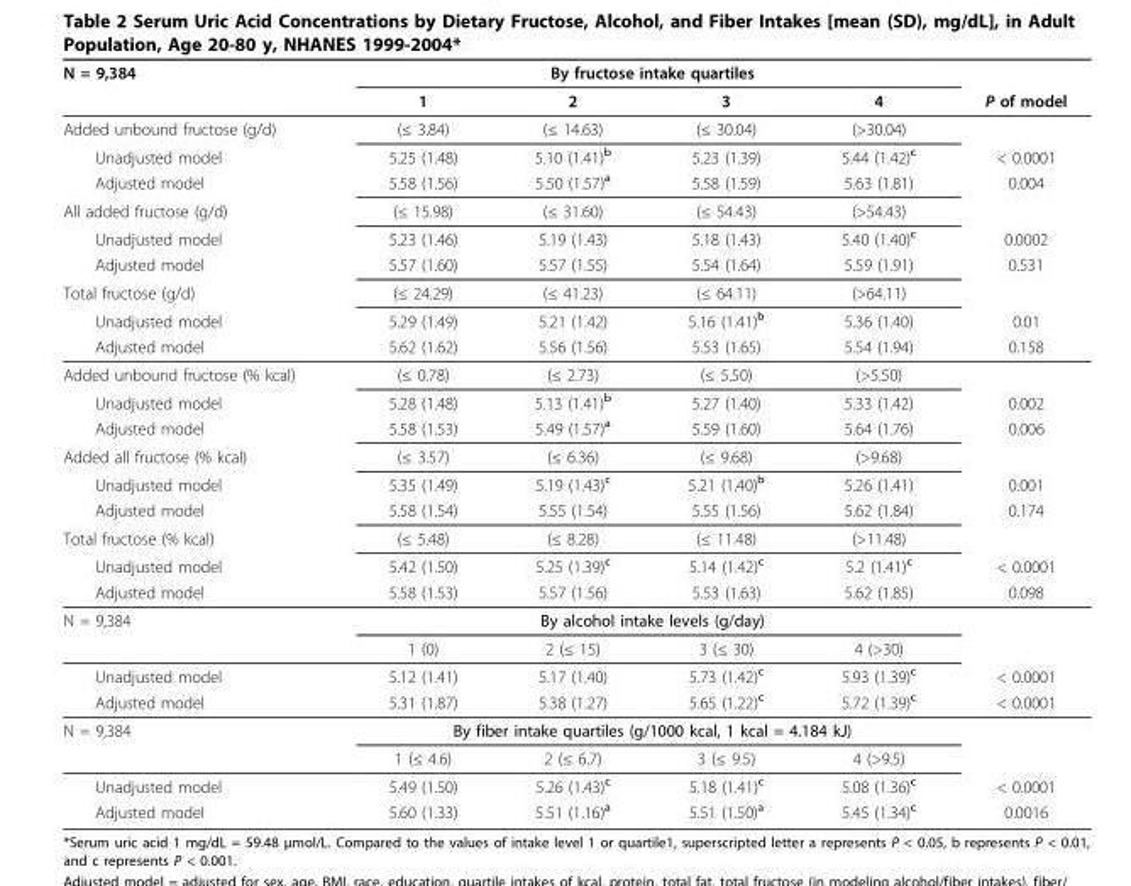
<table><thead><tr><td rowspan="2">N = 9,384</td><td colspan="4">By fructose intake quartiles</td><td rowspan="2">P of model</td></tr><tr><td>1</td><td>2</td><td>3</td><td>4</td></tr></thead><tbody><tr><td>Added unbound fructose (g/d)</td><td>(≤ 3.84)</td><td>(≤ 14.63)</td><td>(≤ 30.04)</td><td>(&gt;30.04)</td><td></td></tr><tr><td>Unadjusted model</td><td>5.25 (1.48)</td><td>5.10 (1.41)<sup>b</sup></td><td>5.23 (1.39)</td><td>5.44 (1.42)<sup>c</sup></td><td>&lt; 0.0001</td></tr><tr><td>Adjusted model</td><td>5.58 (1.56)</td><td>5.50 (1.57)<sup>a</sup></td><td>5.58 (1.59)</td><td>5.63 (1.81)</td><td>0.004</td></tr><tr><td>All added fructose (g/d)</td><td>(≤ 15.98)</td><td>(≤ 31.60)</td><td>(≤ 54.43)</td><td>(&gt;54.43)</td><td></td></tr><tr><td>Unadjusted model</td><td>5.23 (1.46)</td><td>5.19 (1.43)</td><td>5.18 (1.43)</td><td>5.40 (1.40)<sup>c</sup></td><td>0.0002</td></tr><tr><td>Adjusted model</td><td>5.57 (1.60)</td><td>5.57 (1.55)</td><td>5.54 (1.64)</td><td>5.59 (1.91)</td><td>0.531</td></tr><tr><td>Total fructose (g/d)</td><td>(≤ 24.29)</td><td>(≤ 41.23)</td><td>(≤ 64.11)</td><td>(&gt;64.11)</td><td></td></tr><tr><td>Unadjusted model</td><td>5.29 (1.49)</td><td>5.21 (1.42)</td><td>5.16 (1.41)<sup>b</sup></td><td>5.36 (1.40)</td><td>0.01</td></tr><tr><td>Adjusted model</td><td>5.62 (1.62)</td><td>5.56 (1.56)</td><td>5.53 (1.65)</td><td>5.54 (1.94)</td><td>0.158</td></tr><tr><td>Added unbound fructose (% kcal)</td><td>(≤ 0.78)</td><td>(≤ 2.73)</td><td>(≤ 5.50)</td><td>(&gt;5.50)</td><td></td></tr><tr><td>Unadjusted model</td><td>5.28 (1.48)</td><td>5.13 (1.41)<sup>b</sup></td><td>5.27 (1.40)</td><td>5.33 (1.42)</td><td>0.002</td></tr><tr><td>Adjusted model</td><td>5.58 (1.53)</td><td>5.49 (1.57)<sup>a</sup></td><td>5.59 (1.60)</td><td>5.64 (1.76)</td><td>0.006</td></tr><tr><td>Added all fructose (% kcal)</td><td>(≤ 3.57)</td><td>(≤ 6.36)</td><td>(≤ 9.68)</td><td>(&gt;9.68)</td><td></td></tr><tr><td>Unadjusted model</td><td>5.35 (1.49)</td><td>5.19 (1.43)<sup>c</sup></td><td>5.21 (1.40)<sup>b</sup></td><td>5.26 (1.41)</td><td>0.001</td></tr><tr><td>Adjusted model</td><td>5.58 (1.54)</td><td>5.55 (1.54)</td><td>5.55 (1.56)</td><td>5.62 (1.84)</td><td>0.174</td></tr><tr><td>Total fructose (% kcal)</td><td>(≤ 5.48)</td><td>(≤ 8.28)</td><td>(≤ 11.48)</td><td>(&gt;11.48)</td><td></td></tr><tr><td>Unadjusted model</td><td>5.42 (1.50)</td><td>5.25 (1.39)<sup>c</sup></td><td>5.14 (1.42)<sup>c</sup></td><td>5.2 (1.41)<sup>c</sup></td><td>&lt; 0.0001</td></tr><tr><td>Adjusted model</td><td>5.58 (1.53)</td><td>5.57 (1.56)</td><td>5.53 (1.63)</td><td>5.62 (1.85)</td><td>0.098</td></tr><tr><td rowspan="2">N = 9,384</td><td colspan="4">By alcohol intake levels (g/day)</td><td></td></tr><tr><td>1 (0)</td><td>2 (≤ 15)</td><td>3 (≤ 30)</td><td>4 (&gt;30)</td><td></td></tr><tr><td>Unadjusted model</td><td>5.12 (1.41)</td><td>5.17 (1.40)</td><td>5.73 (1.42)<sup>c</sup></td><td>5.93 (1.39)<sup>c</sup></td><td>&lt; 0.0001</td></tr><tr><td>Adjusted model</td><td>5.31 (1.87)</td><td>5.38 (1.27)</td><td>5.65 (1.22)<sup>c</sup></td><td>5.72 (1.39)<sup>c</sup></td><td>&lt; 0.0001</td></tr><tr><td rowspan="2">N = 9,384</td><td colspan="4">By fiber intake quartiles (g/1000 kcal, 1 kcal = 4.184 kJ)</td><td></td></tr><tr><td>1 (≤ 4.6)</td><td>2 (≤ 6.7)</td><td>3 (≤ 9.5)</td><td>4 (&gt;9.5)</td><td></td></tr><tr><td>Unadjusted model</td><td>5.49 (1.50)</td><td>5.26 (1.43)<sup>c</sup></td><td>5.18 (1.41)<sup>c</sup></td><td>5.08 (1.36)<sup>c</sup></td><td>&lt; 0.0001</td></tr><tr><td>Adjusted model</td><td>5.60 (1.33)</td><td>5.51 (1.16)<sup>a</sup></td><td>5.51 (1.50)<sup>a</sup></td><td>5.45 (1.34)<sup>c</sup></td><td>0.0016</td></tr></tbody></table>